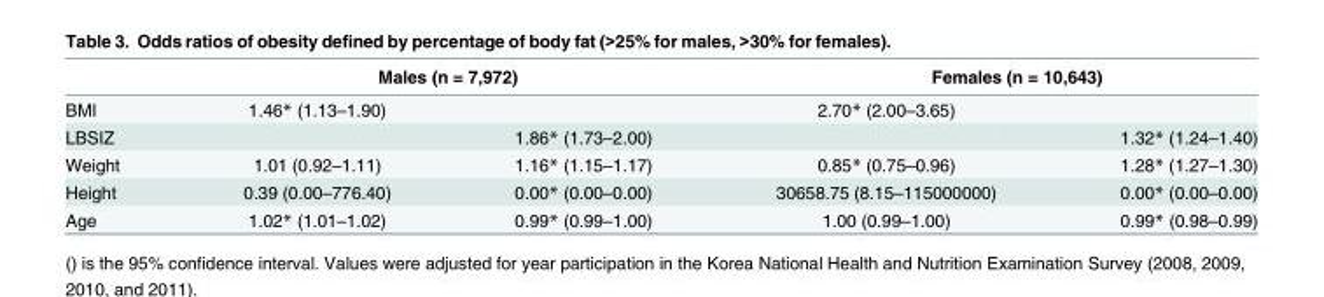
<table><thead><tr><td rowspan="2">BMI</td><td colspan="2">Males (n = 7,972)</td><td colspan="2">Females (n = 10,643)</td></tr><tr><td>1.46* (1.13–1.90)</td><td></td><td>2.70* (2.00–3.65)</td><td></td></tr></thead><tbody><tr><td>LBSIZ</td><td></td><td>1.86* (1.73–2.00)</td><td></td><td>1.32* (1.24–1.40)</td></tr><tr><td>Weight</td><td>1.01 (0.92–1.11)</td><td>1.16* (1.15–1.17)</td><td>0.85* (0.75–0.96)</td><td>1.28* (1.27–1.30)</td></tr><tr><td>Height</td><td>0.39 (0.00–776.40)</td><td>0.00* (0.00–0.00)</td><td>30658.75 (8.15–115000000)</td><td>0.00* (0.00–0.00)</td></tr><tr><td>Age</td><td>1.02* (1.01–1.02)</td><td>0.99* (0.99–1.00)</td><td>1.00 (0.99–1.00)</td><td>0.99* (0.98–0.99)</td></tr></tbody></table>